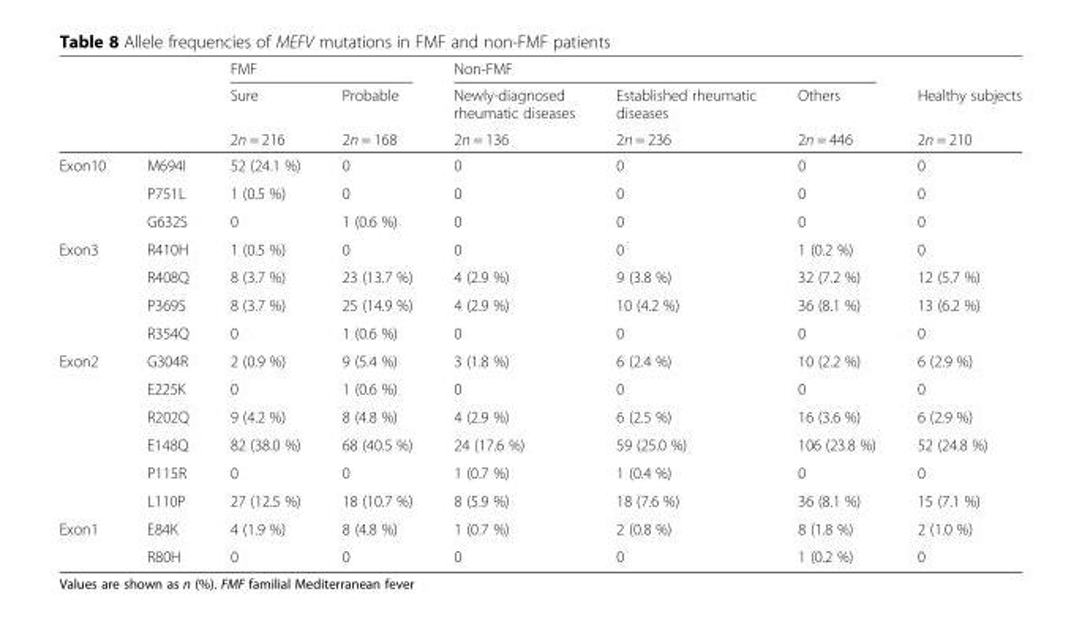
<table><thead><tr><td rowspan="3"></td><td rowspan="3"></td><td colspan="2">FMF</td><td colspan="3">Non-FMF</td><td rowspan="3">Healthy subjects 2n = 210</td></tr><tr><td rowspan="2">Sure 2n = 216</td><td rowspan="2">Probable 2n = 168</td><td rowspan="2">Newly-diagnosed rheumatic diseases 2n = 136</td><td rowspan="2">Established rheumatic diseases 2n = 236</td><td rowspan="2">Others 2n = 446</td></tr><tr></tr></thead><tbody><tr><td rowspan="3">Exon10</td><td>M694I</td><td>52 (24.1 %)</td><td>0</td><td>0</td><td>0</td><td>0</td><td>0</td></tr><tr><td>P751L</td><td>1 (0.5 %)</td><td>0</td><td>0</td><td>0</td><td>0</td><td>0</td></tr><tr><td>G632S</td><td>0</td><td>1 (0.6 %)</td><td>0</td><td>0</td><td>0</td><td>0</td></tr><tr><td rowspan="4">Exon3</td><td>R410H</td><td>1 (0.5 %)</td><td>0</td><td>0</td><td>0</td><td>1 (0.2 %)</td><td>0</td></tr><tr><td>R408Q</td><td>8 (3.7 %)</td><td>23 (13.7 %)</td><td>4 (2.9 %)</td><td>9 (3.8 %)</td><td>32 (7.2 %)</td><td>12 (5.7 %)</td></tr><tr><td>P369S</td><td>8 (3.7 %)</td><td>25 (14.9 %)</td><td>4 (2.9 %)</td><td>10 (4.2 %)</td><td>36 (8.1 %)</td><td>13 (6.2 %)</td></tr><tr><td>R354Q</td><td>0</td><td>1 (0.6 %)</td><td>0</td><td>0</td><td>0</td><td>0</td></tr><tr><td rowspan="6">Exon2</td><td>G304R</td><td>2 (0.9 %)</td><td>9 (5.4 %)</td><td>3 (1.8 %)</td><td>6 (2.4 %)</td><td>10 (2.2 %)</td><td>6 (2.9 %)</td></tr><tr><td>E225K</td><td>0</td><td>1 (0.6 %)</td><td>0</td><td>0</td><td>0</td><td>0</td></tr><tr><td>R202Q</td><td>9 (4.2 %)</td><td>8 (4.8 %)</td><td>4 (2.9 %)</td><td>6 (2.5 %)</td><td>16 (3.6 %)</td><td>6 (2.9 %)</td></tr><tr><td>E148Q</td><td>82 (38.0 %)</td><td>68 (40.5 %)</td><td>24 (17.6 %)</td><td>59 (25.0 %)</td><td>106 (23.8 %)</td><td>52 (24.8 %)</td></tr><tr><td>P115R</td><td>0</td><td>0</td><td>1 (0.7 %)</td><td>1 (0.4 %)</td><td>0</td><td>0</td></tr><tr><td>L110P</td><td>27 (12.5 %)</td><td>18 (10.7 %)</td><td>8 (5.9 %)</td><td>18 (7.6 %)</td><td>36 (8.1 %)</td><td>15 (7.1 %)</td></tr><tr><td rowspan="2">Exon1</td><td>E84K</td><td>4 (1.9 %)</td><td>8 (4.8 %)</td><td>1 (0.7 %)</td><td>2 (0.8 %)</td><td>8 (1.8 %)</td><td>2 (1.0 %)</td></tr><tr><td>R80H</td><td>0</td><td>0</td><td>0</td><td>0</td><td>1 (0.2 %)</td><td>0</td></tr></tbody></table>